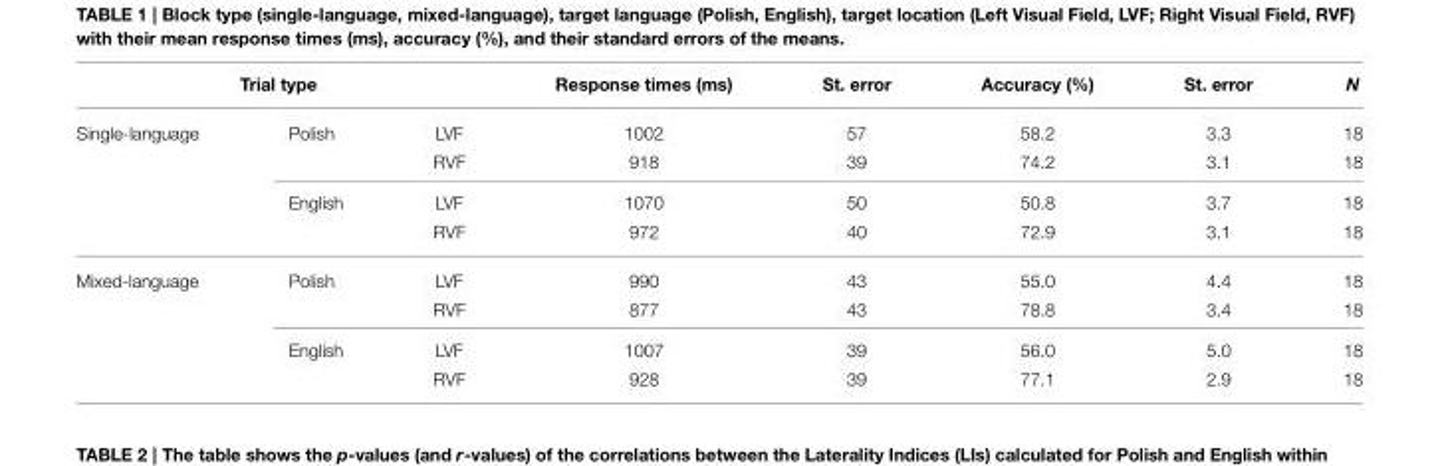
<table><thead><tr><td colspan="3">Trial type</td><td rowspan="2">Response times (ms) 1002</td><td rowspan="2">St. error 57</td><td rowspan="2">Accuracy (%) 58.2</td><td rowspan="2">St. error 3.3</td><td rowspan="2">N 18</td></tr><tr><td>Single-language</td><td>Polish</td><td>LVF</td></tr></thead><tbody><tr><td></td><td></td><td>RVF</td><td>918</td><td>39</td><td>74.2</td><td>3.1</td><td>18</td></tr><tr><td></td><td>English</td><td>LVF</td><td>1070</td><td>50</td><td>50.8</td><td>3.7</td><td>18</td></tr><tr><td></td><td></td><td>RVF</td><td>972</td><td>40</td><td>72.9</td><td>3.1</td><td>18</td></tr><tr><td rowspan="4">Mixed-language</td><td>Polish</td><td>LVF</td><td>990</td><td>43</td><td>55.0</td><td>4.4</td><td>18</td></tr><tr><td></td><td>RVF</td><td>877</td><td>43</td><td>78.8</td><td>3.4</td><td>18</td></tr><tr><td>English</td><td>LVF</td><td>1007</td><td>39</td><td>56.0</td><td>5.0</td><td>18</td></tr><tr><td></td><td>RVF</td><td>928</td><td>39</td><td>77.1</td><td>2.9</td><td>18</td></tr></tbody></table>